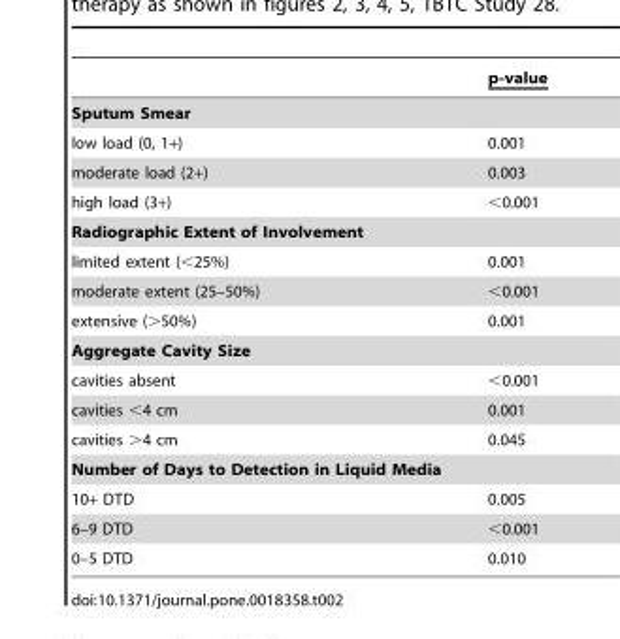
<table><thead><tr><td></td><td>p-value</td></tr></thead><tbody><tr><td colspan="2">Sputum Smear</td></tr><tr><td>low load (0, 1+)</td><td>0.001</td></tr><tr><td>moderate load (2+)</td><td>0.003</td></tr><tr><td>high load (3+)</td><td>&lt;0.001</td></tr><tr><td colspan="2">Radiographic Extent of Involvement</td></tr><tr><td>limited extent (&lt;25%)</td><td>0.001</td></tr><tr><td>moderate extent (25–50%)</td><td>&lt;0.001</td></tr><tr><td>extensive (&gt;50%)</td><td>0.001</td></tr><tr><td colspan="2">Aggregate Cavity Size</td></tr><tr><td>cavities absent</td><td>&lt;0.001</td></tr><tr><td>cavities &lt;4 cm</td><td>0.001</td></tr><tr><td>cavities &gt;4 cm</td><td>0.045</td></tr><tr><td colspan="2">Number of Days to Detection in Liquid Media</td></tr><tr><td>10+ DTD</td><td>0.005</td></tr><tr><td>6–9 DTD</td><td>&lt;0.001</td></tr><tr><td>0–5 DTD</td><td>0.010</td></tr></tbody></table>